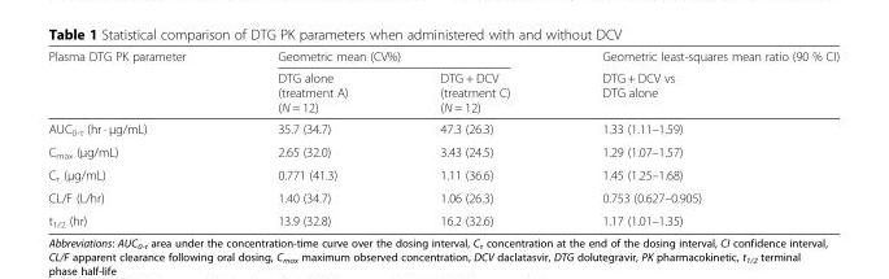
<table><thead><tr><td rowspan="2">Plasma DTG PK parameter</td><td colspan="2">Geometric mean (CV%)</td><td rowspan="2">Geometric least-squares mean ratio (90 % CI) DTG + DCV vs DTG alone</td></tr><tr><td>DTG alone (treatment A) (N = 12)</td><td>DTG + DCV (treatment C) (N = 12)</td></tr></thead><tbody><tr><td>AUC<sub>0-τ</sub> (hr · μg/mL)</td><td>35.7 (34.7)</td><td>47.3 (26.3)</td><td>1.33 (1.11–1.59)</td></tr><tr><td>C<sub>max</sub> (μg/mL)</td><td>2.65 (32.0)</td><td>3.43 (24.5)</td><td>1.29 (1.07–1.57)</td></tr><tr><td>C<sub>τ</sub> (μg/mL)</td><td>0.771 (41.3)</td><td>1.11 (36.6)</td><td>1.45 (1.25–1.68)</td></tr><tr><td>CL/F (L/hr)</td><td>1.40 (34.7)</td><td>1.06 (26.3)</td><td>0.753 (0.627–0.905)</td></tr><tr><td>t<sub>1/2</sub> (hr)</td><td>13.9 (32.8)</td><td>16.2 (32.6)</td><td>1.17 (1.01–1.35)</td></tr></tbody></table>